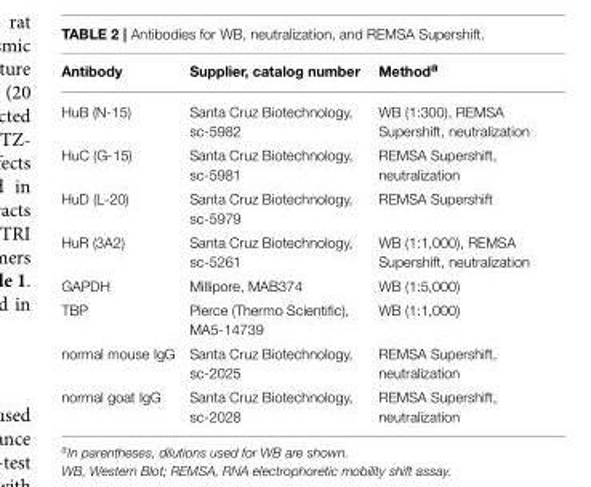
<table><thead><tr><td>Antibody</td><td>Supplier, catalog number</td><td>Method<sup>a</sup></td></tr></thead><tbody><tr><td>HuB (N-15)</td><td>Santa Cruz Biotechnology, sc-5982</td><td>WB (1:300), REMSA Supershift, neutralization</td></tr><tr><td>HuC (G-15)</td><td>Santa Cruz Biotechnology, sc-5981</td><td>REMSA Supershift, neutralization</td></tr><tr><td>HuD (L-20)</td><td>Santa Cruz Biotechnology, sc-5979</td><td>REMSA Supershift</td></tr><tr><td>HuR (3A2)</td><td>Santa Cruz Biotechnology, sc-5261</td><td>WB (1:1,000), REMSA Supershift, neutralization</td></tr><tr><td>GAPDH</td><td>Millipore, MAB374</td><td>WB (1:5,000)</td></tr><tr><td>TBP</td><td>Pierce (Thermo Scientific), MA5-14739</td><td>WB (1:1,000)</td></tr><tr><td>normal mouse IgG</td><td>Santa Cruz Biotechnology, sc-2025</td><td>REMSA Supershift, neutralization</td></tr><tr><td>normal goat IgG</td><td>Santa Cruz Biotechnology, sc-2028</td><td>REMSA Supershift, neutralization</td></tr></tbody></table>